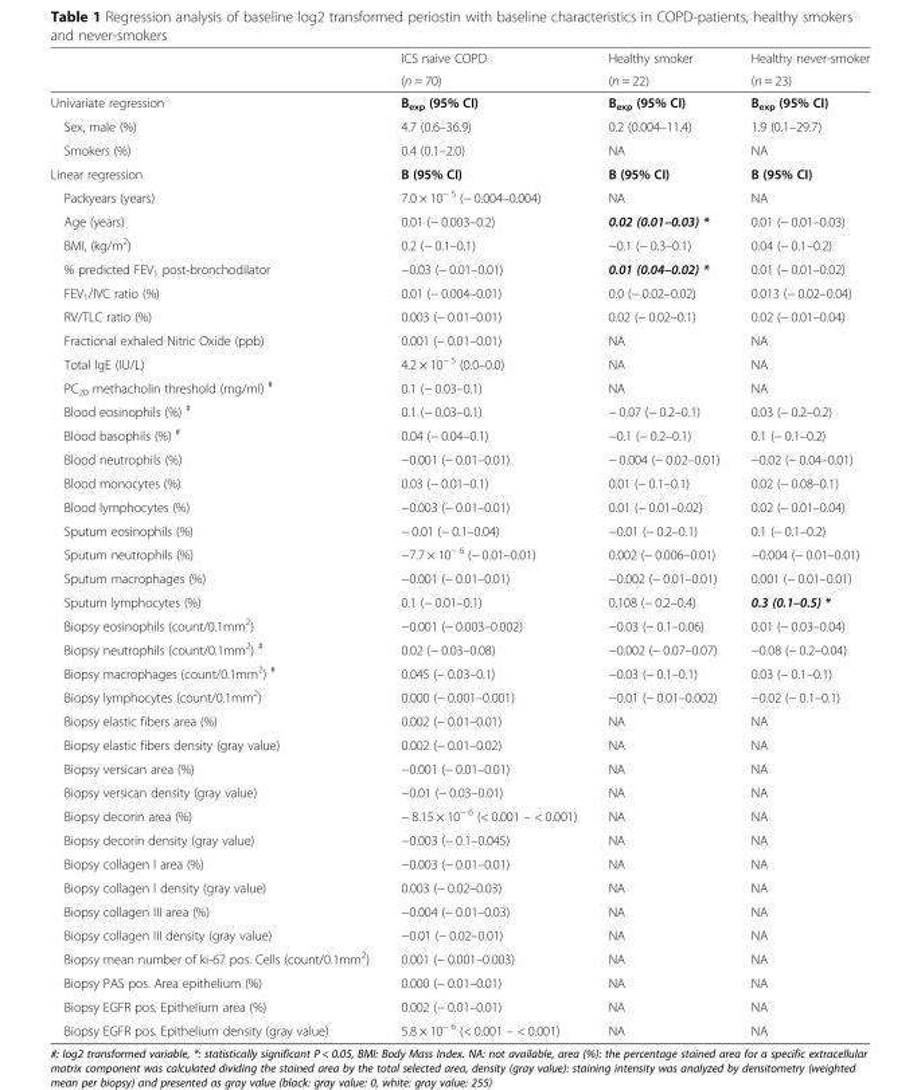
<table><thead><tr><td rowspan="2"></td><td rowspan="2">ICS naive COPD (n = 70)</td><td rowspan="2">Healthy smoker (n = 22)</td><td rowspan="2">Healthy never-smoker (n = 23)</td></tr><tr></tr></thead><tbody><tr><td>Univariate regression</td><td>B<sub>exp</sub> (95% CI)</td><td>B<sub>exp</sub> (95% CI)</td><td>B<sub>exp</sub> (95% CI)</td></tr><tr><td>Sex, male (%)</td><td>4.7 (0.6–36.9)</td><td>0.2 (0.004–11.4)</td><td>1.9 (0.1–29.7)</td></tr><tr><td>Smokers (%)</td><td>0.4 (0.1–2.0)</td><td>NA</td><td>NA</td></tr><tr><td>Linear regression</td><td>B (95% CI)</td><td>B (95% CI)</td><td>B (95% CI)</td></tr><tr><td>Packyears (years)</td><td>7.0 × 10<sup>− 5</sup> (− 0.004–0.004)</td><td>NA</td><td>NA</td></tr><tr><td>Age (years)</td><td>0.01 (− 0.003–0.2)</td><td>0.02 (0.01–0.03) *</td><td>0.01 (− 0.01–0.03)</td></tr><tr><td>BMI, (kg/m<sup>2</sup>)</td><td>0.2 (− 0.1–0.1)</td><td>−0.1 (− 0.3–0.1)</td><td>0.04 (− 0.1–0.2)</td></tr><tr><td>% predicted FEV<sub>1</sub> post-bronchodilator</td><td>−0.03 (− 0.01–0.01)</td><td>0.01 (0.04–0.02) *</td><td>0.01 (− 0.01–0.02)</td></tr><tr><td>FEV<sub>1</sub>/IVC ratio (%)</td><td>0.01 (− 0.004–0.01)</td><td>0.0 (− 0.02–0.02)</td><td>0.013 (− 0.02–0.04)</td></tr><tr><td>RV/TLC ratio (%)</td><td>0.003 (− 0.01–0.01)</td><td>0.02 (− 0.02–0.1)</td><td>0.02 (− 0.01–0.04)</td></tr><tr><td>Fractional exhaled Nitric Oxide (ppb)</td><td>0.001 (− 0.01–0.01)</td><td>NA</td><td>NA</td></tr><tr><td>Total IgE (IU/L)</td><td>4.2 × 10<sup>− 5</sup> (0.0–0.0)</td><td>NA</td><td>NA</td></tr><tr><td>PC<sub>20</sub> methacholin threshold (mg/ml) <sup>#</sup></td><td>0.1 (− 0.03–0.1)</td><td>NA</td><td>NA</td></tr><tr><td>Blood eosinophils (%) <sup>#</sup></td><td>0.1 (− 0.03–0.1)</td><td>− 0.07 (− 0.2–0.1)</td><td>0.03 (− 0.2–0.2)</td></tr><tr><td>Blood basophils (%) <sup>#</sup></td><td>0.04 (− 0.04–0.1)</td><td>−0.1 (− 0.2–0.1)</td><td>0.1 (− 0.1–0.2)</td></tr><tr><td>Blood neutrophils (%)</td><td>−0.001 (− 0.01–0.01)</td><td>− 0.004 (− 0.02–0.01)</td><td>−0.02 (− 0.04–0.01)</td></tr><tr><td>Blood monocytes (%)</td><td>0.03 (− 0.01–0.1)</td><td>0.01 (− 0.1–0.1)</td><td>0.02 (− 0.08–0.1)</td></tr><tr><td>Blood lymphocytes (%)</td><td>−0.003 (− 0.01–0.01)</td><td>0.01 (− 0.01–0.02)</td><td>0.02 (− 0.01–0.04)</td></tr><tr><td>Sputum eosinophils (%)</td><td>− 0.01 (− 0.1–0.04)</td><td>−0.01 (− 0.2–0.1)</td><td>0.1 (− 0.1–0.2)</td></tr><tr><td>Sputum neutrophils (%)</td><td>−7.7 × 10<sup>− 6</sup> (− 0.01–0.01)</td><td>0.002 (− 0.006–0.01)</td><td>−0.004 (− 0.01–0.01)</td></tr><tr><td>Sputum macrophages (%)</td><td>−0.001 (− 0.01–0.01)</td><td>−0.002 (− 0.01–0.01)</td><td>0.001 (− 0.01–0.01)</td></tr><tr><td>Sputum lymphocytes (%)</td><td>0.1 (− 0.01–0.1)</td><td>0.108 (− 0.2–0.4)</td><td>0.3 (0.1–0.5) *</td></tr><tr><td>Biopsy eosinophils (count/0.1mm<sup>2</sup>)</td><td>−0.001 (− 0.003–0.002)</td><td>−0.03 (− 0.1–0.06)</td><td>0.01 (− 0.03–0.04)</td></tr><tr><td>Biopsy neutrophils (count/0.1mm<sup>2</sup>) <sup>#</sup></td><td>0.02 (− 0.03–0.08)</td><td>−0.002 (− 0.07–0.07)</td><td>−0.08 (− 0.2–0.04)</td></tr><tr><td>Biopsy macrophages (count/0.1mm<sup>2</sup>) <sup>#</sup></td><td>0.045 (− 0.03–0.1)</td><td>−0.03 (− 0.1–0.1)</td><td>0.03 (− 0.1–0.1)</td></tr><tr><td>Biopsy lymphocytes (count/0.1mm<sup>2</sup>)</td><td>0.000 (− 0.001–0.001)</td><td>−0.01 (− 0.01–0.002)</td><td>−0.02 (− 0.1–0.1)</td></tr><tr><td>Biopsy elastic fibers area (%)</td><td>0.002 (− 0.01–0.01)</td><td>NA</td><td>NA</td></tr><tr><td>Biopsy elastic fibers density (gray value)</td><td>0.002 (− 0.01–0.02)</td><td>NA</td><td>NA</td></tr><tr><td>Biopsy versican area (%)</td><td>−0.001 (− 0.01–0.01)</td><td>NA</td><td>NA</td></tr><tr><td>Biopsy versican density (gray value)</td><td>−0.01 (− 0.03–0.01)</td><td>NA</td><td>NA</td></tr><tr><td>Biopsy decorin area (%)</td><td>− 8.15 × 10<sup>− 6</sup> (&lt; 0.001 – &lt; 0.001)</td><td>NA</td><td>NA</td></tr><tr><td>Biopsy decorin density (gray value)</td><td>−0.003 (− 0.1–0.045)</td><td>NA</td><td>NA</td></tr><tr><td>Biopsy collagen I area (%)</td><td>−0.003 (− 0.01–0.01)</td><td>NA</td><td>NA</td></tr><tr><td>Biopsy collagen I density (gray value)</td><td>0.003 (− 0.02–0.03)</td><td>NA</td><td>NA</td></tr><tr><td>Biopsy collagen III area (%)</td><td>−0.004 (− 0.01–0.03)</td><td>NA</td><td>NA</td></tr><tr><td>Biopsy collagen III density (gray value)</td><td>−0.01 (− 0.02–0.01)</td><td>NA</td><td>NA</td></tr><tr><td>Biopsy mean number of ki-67 pos. Cells (count/0.1mm<sup>2</sup>)</td><td>0.001 (− 0.001–0.003)</td><td>NA</td><td>NA</td></tr><tr><td>Biopsy PAS pos. Area epithelium (%)</td><td>0.000 (− 0.01–0.01)</td><td>NA</td><td>NA</td></tr><tr><td>Biopsy EGFR pos. Epithelium area (%)</td><td>0.002 (− 0.01–0.01)</td><td>NA</td><td>NA</td></tr><tr><td>Biopsy EGFR pos. Epithelium density (gray value)</td><td>5.8 × 10<sup>− 6</sup> (&lt; 0.001 – &lt; 0.001)</td><td>NA</td><td>NA</td></tr></tbody></table>